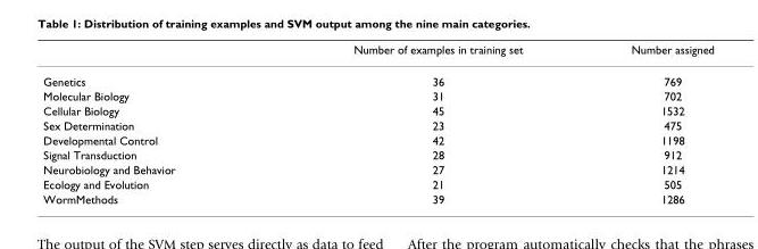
<table><thead><tr><td></td><td>Number of examples in training set</td><td>Number assigned</td></tr></thead><tbody><tr><td>Genetics</td><td>36</td><td>769</td></tr><tr><td>Molecular Biology</td><td>31</td><td>702</td></tr><tr><td>Cellular Biology</td><td>45</td><td>1532</td></tr><tr><td>Sex Determination</td><td>23</td><td>475</td></tr><tr><td>Developmental Control</td><td>42</td><td>1198</td></tr><tr><td>Signal Transduction</td><td>28</td><td>912</td></tr><tr><td>Neurobiology and Behavior</td><td>27</td><td>1214</td></tr><tr><td>Ecology and Evolution</td><td>21</td><td>505</td></tr><tr><td>WormMethods</td><td>39</td><td>1286</td></tr></tbody></table>